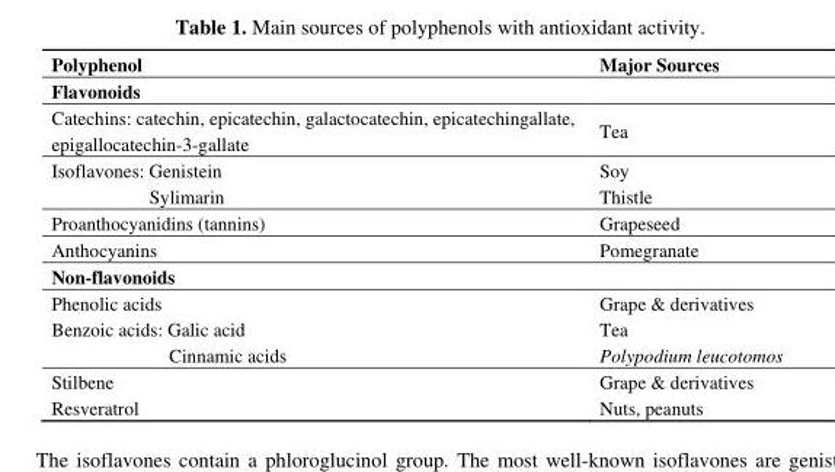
<table><thead><tr><td>Polyphenol</td><td>Major Sources</td></tr></thead><tbody><tr><td colspan="2">Flavonoids</td></tr><tr><td>Catechins: catechin, epicatechin, galactocatechin, epicatechingallate, epigallocatechin-3-gallate</td><td>Tea</td></tr><tr><td>Isoflavones: Genistein</td><td>Soy</td></tr><tr><td>Sylimarin</td><td>Thistle</td></tr><tr><td>Proanthocyanidins (tannins)</td><td>Grapeseed</td></tr><tr><td>Anthocyanins</td><td>Pomegranate</td></tr><tr><td colspan="2">Non-flavonoids</td></tr><tr><td>Phenolic acids</td><td>Grape &amp; derivatives</td></tr><tr><td>Benzoic acids: Galic acid</td><td>Tea</td></tr><tr><td>Cinnamic acids</td><td>Polypodium leucotomos</td></tr><tr><td>Stilbene</td><td>Grape &amp; derivatives</td></tr><tr><td>Resveratrol</td><td>Nuts, peanuts</td></tr></tbody></table>